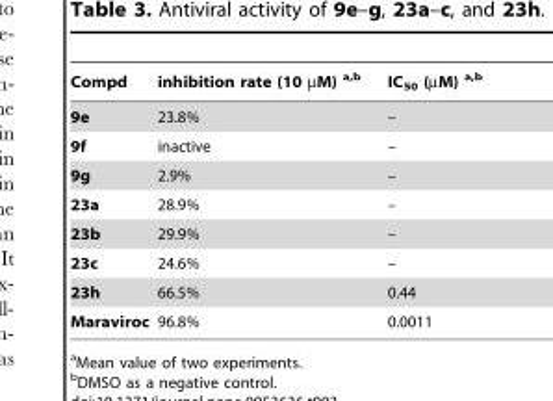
<table><thead><tr><td>Compd</td><td>inhibition rate (10 µM) a,b</td><td>IC<sub>50</sub> (µM) a,b</td></tr></thead><tbody><tr><td>9e</td><td>23.8%</td><td>–</td></tr><tr><td>9f</td><td>inactive</td><td>–</td></tr><tr><td>9g</td><td>2.9%</td><td>–</td></tr><tr><td>23a</td><td>28.9%</td><td>–</td></tr><tr><td>23b</td><td>29.9%</td><td>–</td></tr><tr><td>23c</td><td>24.6%</td><td>–</td></tr><tr><td>23h</td><td>66.5%</td><td>0.44</td></tr><tr><td>Maraviroc</td><td>96.8%</td><td>0.0011</td></tr></tbody></table>